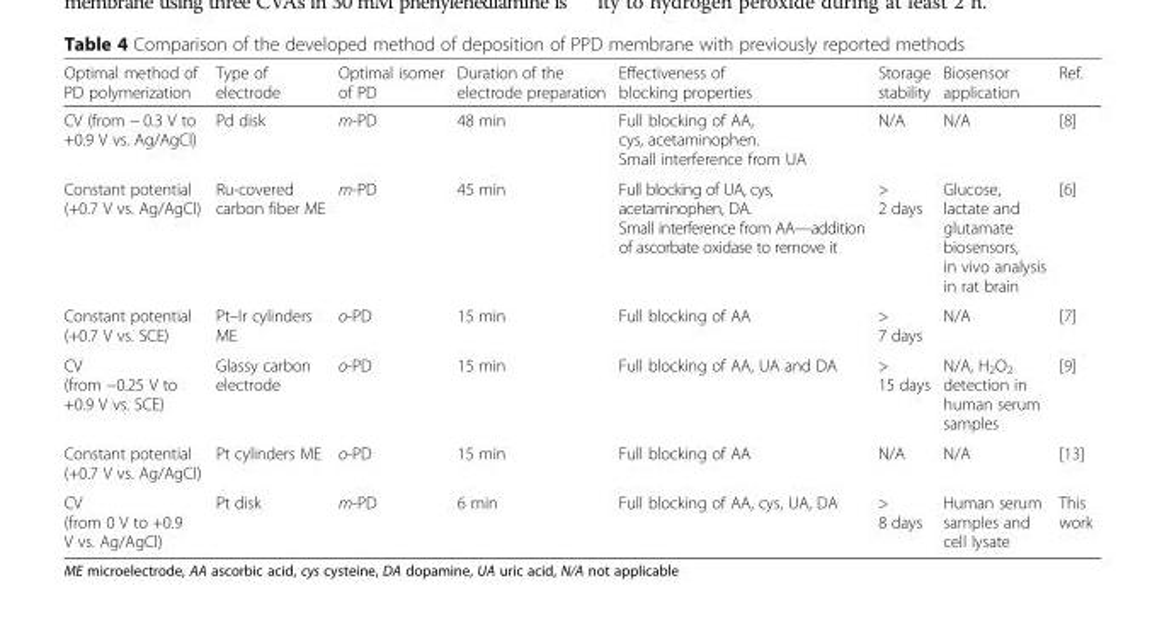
<table><thead><tr><td>Optimal method of PD polymerization</td><td>Type of electrode</td><td>Optimal isomer of PD</td><td>Duration of the electrode preparation</td><td>Effectiveness of blocking properties</td><td>Storage stability</td><td>Biosensor application</td><td>Ref.</td></tr></thead><tbody><tr><td>CV (from − 0.3 V to +0.9 V vs. Ag/AgCl)</td><td>Pd disk</td><td>m-PD</td><td>48 min</td><td>Full blocking of AA, cys, acetaminophen. Small interference from UA</td><td>N/A</td><td>N/A</td><td>[8]</td></tr><tr><td>Constant potential (+0.7 V vs. Ag/AgCl)</td><td>Ru-covered carbon fiber ME</td><td>m-PD</td><td>45 min</td><td>Full blocking of UA, cys, acetaminophen, DA. Small interference from AA—addition of ascorbate oxidase to remove it</td><td>&gt; 2 days</td><td>Glucose, lactate and glutamate biosensors, in vivo analysis in rat brain</td><td>[6]</td></tr><tr><td>Constant potential (+0.7 V vs. SCE)</td><td>Pt–Ir cylinders ME</td><td>o-PD</td><td>15 min</td><td>Full blocking of AA</td><td>&gt; 7 days</td><td>N/A</td><td>[7]</td></tr><tr><td>CV (from −0.25 V to +0.9 V vs. SCE)</td><td>Glassy carbon electrode</td><td>o-PD</td><td>15 min</td><td>Full blocking of AA, UA and DA</td><td>&gt; 15 days</td><td>N/A, H<sub>2</sub>O<sub>2</sub> detection in human serum samples</td><td>[9]</td></tr><tr><td>Constant potential (+0.7 V vs. Ag/AgCl)</td><td>Pt cylinders ME</td><td>o-PD</td><td>15 min</td><td>Full blocking of AA</td><td>N/A</td><td>N/A</td><td>[13]</td></tr><tr><td>CV (from 0 V to +0.9 V vs. Ag/AgCl)</td><td>Pt disk</td><td>m-PD</td><td>6 min</td><td>Full blocking of AA, cys, UA, DA</td><td>&gt; 8 days</td><td>Human serum samples and cell lysate</td><td>This work</td></tr></tbody></table>